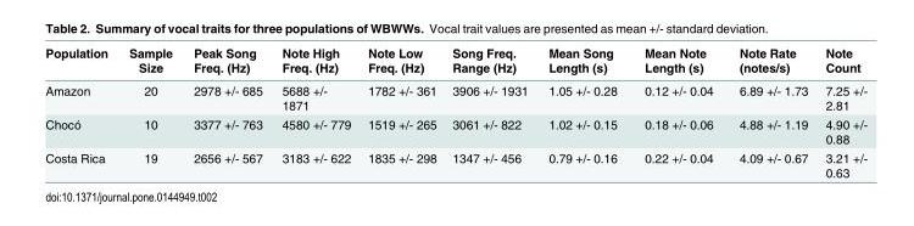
<table><thead><tr><td>Population</td><td>Sample Size</td><td>Peak Song Freq. (Hz)</td><td>Note High Freq. (Hz)</td><td>Note Low Freq. (Hz)</td><td>Song Freq. Range (Hz)</td><td>Mean Song Length (s)</td><td>Mean Note Length (s)</td><td>Note Rate (notes/s)</td><td>Note Count</td></tr></thead><tbody><tr><td>Amazon</td><td>20</td><td>2978 +/- 685</td><td>5688 +/- 1871</td><td>1782 +/- 361</td><td>3906 +/- 1931</td><td>1.05 +/- 0.28</td><td>0.12 +/- 0.04</td><td>6.89 +/- 1.73</td><td>7.25 +/- 2.81</td></tr><tr><td>Chocó</td><td>10</td><td>3377 +/- 763</td><td>4580 +/- 779</td><td>1519 +/- 265</td><td>3061 +/- 822</td><td>1.02 +/- 0.15</td><td>0.18 +/- 0.06</td><td>4.88 +/- 1.19</td><td>4.90 +/- 0.88</td></tr><tr><td>Costa Rica</td><td>19</td><td>2656 +/- 567</td><td>3183 +/- 622</td><td>1835 +/- 298</td><td>1347 +/- 456</td><td>0.79 +/- 0.16</td><td>0.22 +/- 0.04</td><td>4.09 +/- 0.67</td><td>3.21 +/- 0.63</td></tr></tbody></table>